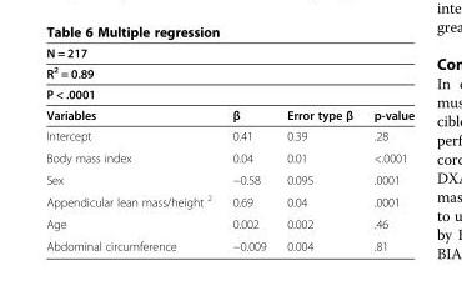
<table><thead><tr><td rowspan="3" colspan="4">N = 217 R<sup>2</sup> = 0.89 P &lt; .0001</td></tr><tr></tr><tr></tr><tr><td>Variables</td><td>β</td><td>Error type β</td><td>p-value</td></tr></thead><tbody><tr><td>Intercept</td><td>0.41</td><td>0.39</td><td>.28</td></tr><tr><td>Body mass index</td><td>0.04</td><td>0.01</td><td>&lt;.0001</td></tr><tr><td>Sex</td><td>−0.58</td><td>0.095</td><td>.0001</td></tr><tr><td>Appendicular lean mass/height <sup>2</sup></td><td>0.69</td><td>0.04</td><td>.0001</td></tr><tr><td>Age</td><td>0.002</td><td>0.002</td><td>.46</td></tr><tr><td>Abdominal circumference</td><td>−0.009</td><td>0.004</td><td>.81</td></tr></tbody></table>